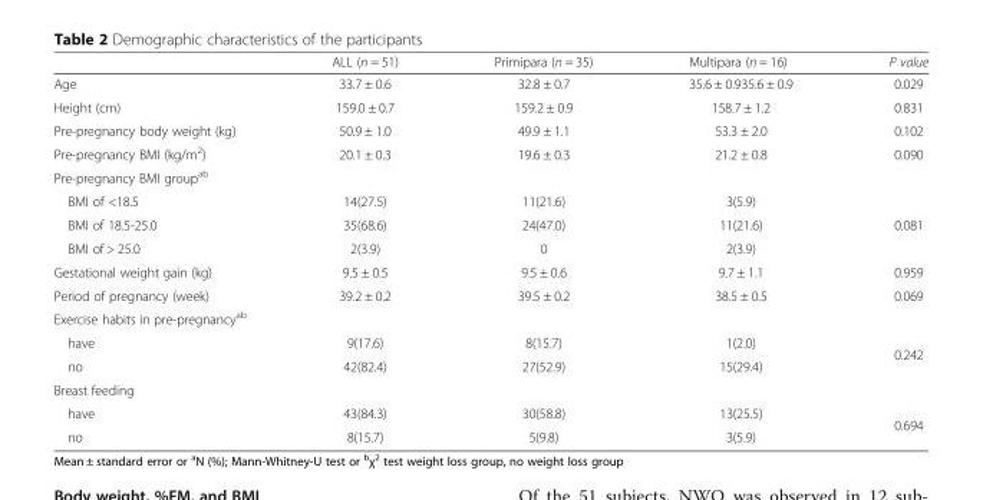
<table><thead><tr><td></td><td>ALL (n = 51)</td><td>Primipara (n = 35)</td><td>Multipara (n = 16)</td><td>P value</td></tr></thead><tbody><tr><td>Age</td><td>33.7 ± 0.6</td><td>32.8 ± 0.7</td><td>35.6 ± 0.935.6 ± 0.9</td><td>0.029</td></tr><tr><td>Height (cm)</td><td>159.0 ± 0.7</td><td>159.2 ± 0.9</td><td>158.7 ± 1.2</td><td>0.831</td></tr><tr><td>Pre-pregnancy body weight (kg)</td><td>50.9 ± 1.0</td><td>49.9 ± 1.1</td><td>53.3 ± 2.0</td><td>0.102</td></tr><tr><td>Pre-pregnancy BMI (kg/m<sup>2</sup>)</td><td>20.1 ± 0.3</td><td>19.6 ± 0.3</td><td>21.2 ± 0.8</td><td>0.090</td></tr><tr><td colspan="5">Pre-pregnancy BMI group<sup>ab</sup></td></tr><tr><td>BMI of &lt;18.5</td><td>14(27.5)</td><td>11(21.6)</td><td>3(5.9)</td><td rowspan="3">0.081</td></tr><tr><td>BMI of 18.5-25.0</td><td>35(68.6)</td><td>24(47.0)</td><td>11(21.6)</td></tr><tr><td>BMI of &gt; 25.0</td><td>2(3.9)</td><td>0</td><td>2(3.9)</td></tr><tr><td>Gestational weight gain (kg)</td><td>9.5 ± 0.5</td><td>9.5 ± 0.6</td><td>9.7 ± 1.1</td><td>0.959</td></tr><tr><td>Period of pregnancy (week)</td><td>39.2 ± 0.2</td><td>39.5 ± 0.2</td><td>38.5 ± 0.5</td><td>0.069</td></tr><tr><td colspan="5">Exercise habits in pre-pregnancy<sup>ab</sup></td></tr><tr><td>have</td><td>9(17.6)</td><td>8(15.7)</td><td>1(2.0)</td><td rowspan="2">0.242</td></tr><tr><td>no</td><td>42(82.4)</td><td>27(52.9)</td><td>15(29.4)</td></tr><tr><td colspan="5">Breast feeding</td></tr><tr><td>have</td><td>43(84.3)</td><td>30(58.8)</td><td>13(25.5)</td><td rowspan="2">0.694</td></tr><tr><td>no</td><td>8(15.7)</td><td>5(9.8)</td><td>3(5.9)</td></tr></tbody></table>